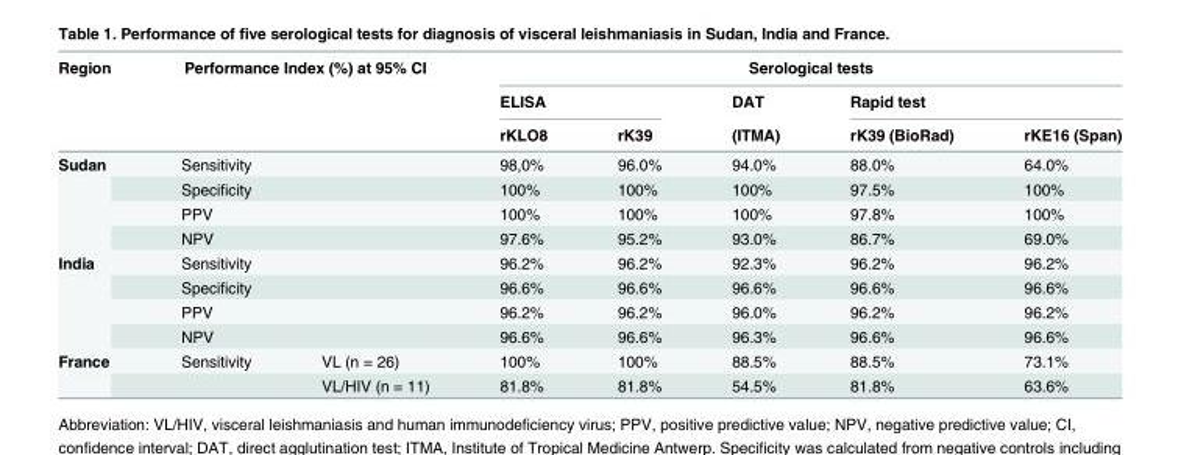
<table><thead><tr><td rowspan="3">Region</td><td colspan="2">Performance Index (%) at 95% CI</td><td colspan="5">Serological tests</td></tr><tr><td rowspan="2"></td><td rowspan="2"></td><td colspan="2">ELISA</td><td rowspan="2">DAT (ITMA)</td><td colspan="2">Rapid test</td></tr><tr><td>rKLO8</td><td>rK39</td><td>rK39 (BioRad)</td><td>rKE16 (Span)</td></tr></thead><tbody><tr><td rowspan="4">Sudan</td><td colspan="2">Sensitivity</td><td>98,0%</td><td>96.0%</td><td>94.0%</td><td>88.0%</td><td>64.0%</td></tr><tr><td colspan="2">Specificity</td><td>100%</td><td>100%</td><td>100%</td><td>97.5%</td><td>100%</td></tr><tr><td colspan="2">PPV</td><td>100%</td><td>100%</td><td>100%</td><td>97.8%</td><td>100%</td></tr><tr><td colspan="2">NPV</td><td>97.6%</td><td>95.2%</td><td>93.0%</td><td>86.7%</td><td>69.0%</td></tr><tr><td rowspan="4">India</td><td colspan="2">Sensitivity</td><td>96.2%</td><td>96.2%</td><td>92.3%</td><td>96.2%</td><td>96.2%</td></tr><tr><td colspan="2">Specificity</td><td>96.6%</td><td>96.6%</td><td>96.6%</td><td>96.6%</td><td>96.6%</td></tr><tr><td colspan="2">PPV</td><td>96.2%</td><td>96.2%</td><td>96.0%</td><td>96.2%</td><td>96.2%</td></tr><tr><td colspan="2">NPV</td><td>96.6%</td><td>96.6%</td><td>96.3%</td><td>96.6%</td><td>96.6%</td></tr><tr><td rowspan="2">France</td><td>Sensitivity</td><td>VL (n = 26)</td><td>100%</td><td>100%</td><td>88.5%</td><td>88.5%</td><td>73.1%</td></tr><tr><td></td><td>VL/HIV (n = 11)</td><td>81.8%</td><td>81.8%</td><td>54.5%</td><td>81.8%</td><td>63.6%</td></tr></tbody></table>